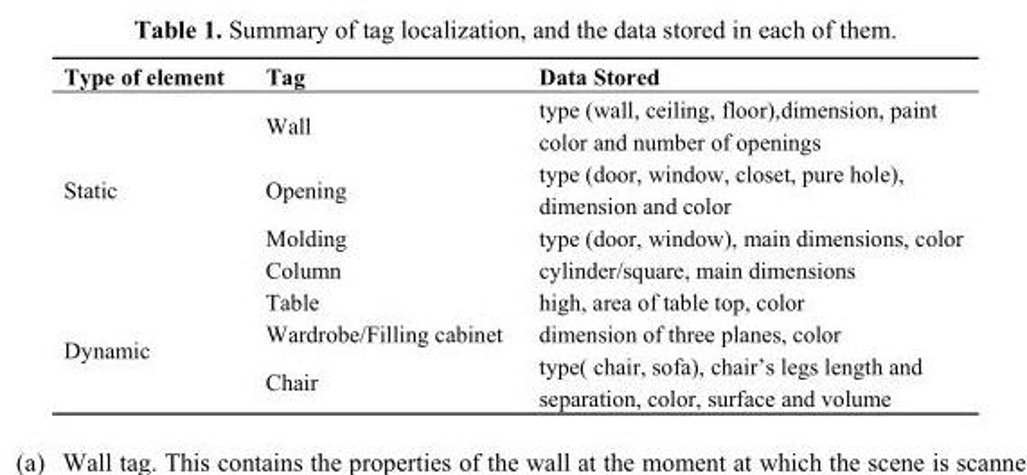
<table><thead><tr><td>Type of element</td><td>Tag</td><td>Data Stored</td></tr></thead><tbody><tr><td></td><td>Wall</td><td>type (wall, ceiling, floor),dimension, paint color and number of openings</td></tr><tr><td rowspan="4">Static</td><td>Opening</td><td>type (door, window, closet, pure hole), dimension and color</td></tr><tr><td>Molding</td><td>type (door, window), main dimensions, color</td></tr><tr><td>Column</td><td>cylinder/square, main dimensions</td></tr><tr><td>Table</td><td>high, area of table top, color</td></tr><tr><td rowspan="2">Dynamic</td><td>Wardrobe/Filling cabinet</td><td>dimension of three planes, color</td></tr><tr><td>Chair</td><td>type( chair, sofa), chair’s legs length and separation, color, surface and volume</td></tr></tbody></table>